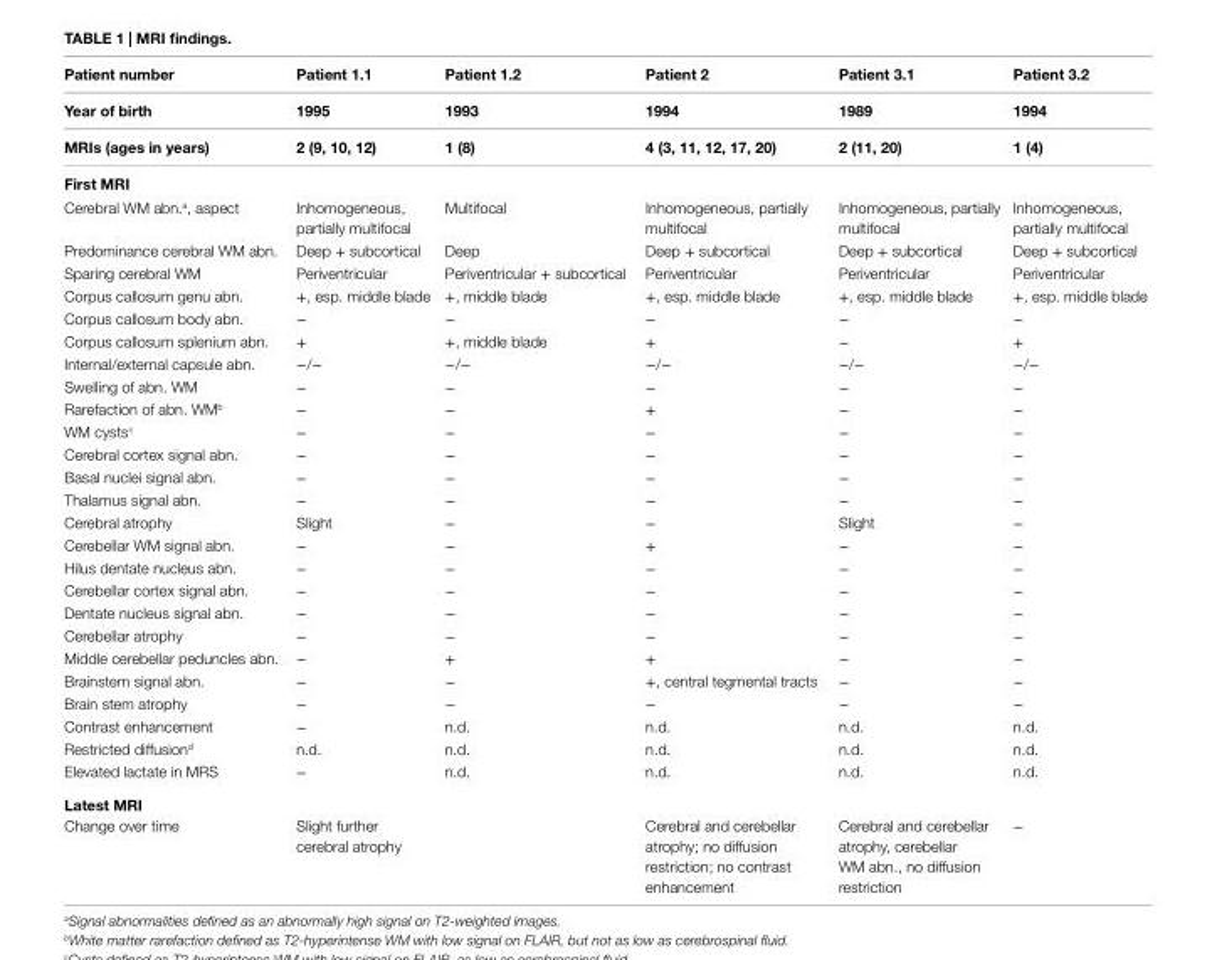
<table><thead><tr><td rowspan="3">Patient number Year of birth Mris (ages in years)</td><td rowspan="3">Patient 1.1 1995 2 (9, 10, 12)</td><td rowspan="3">Patient 1.2 1993 1 (8)</td><td rowspan="3">Patient 2 1994 4 (3, 11, 12, 17, 20)</td><td rowspan="3">Patient 3.1 1989 2 (11, 20)</td><td rowspan="3">Patient 3.2 1994 1 (4)</td></tr><tr></tr><tr></tr></thead><tbody><tr><td colspan="6">First Mri</td></tr><tr><td>Cerebral WM abn.<sup>a</sup>, aspect</td><td>Inhomogeneous, partially multifocal</td><td>Multifocal</td><td>Inhomogeneous, partially multifocal</td><td>Inhomogeneous, partially multifocal</td><td>Inhomogeneous, partially multifocal</td></tr><tr><td>Predominance cerebral WM abn.</td><td>Deep + subcortical</td><td>Deep</td><td>Deep + subcortical</td><td>Deep + subcortical</td><td>Deep + subcortical</td></tr><tr><td>Sparing cerebral WM</td><td>Periventricular</td><td>Periventricular + subcortical</td><td>Periventricular</td><td>Periventricular</td><td>Periventricular</td></tr><tr><td>Corpus callosum genu abn.</td><td>+, esp. middle blade</td><td>+, middle blade</td><td>+, esp. middle blade</td><td>+, esp. middle blade</td><td>+, esp. middle blade</td></tr><tr><td>Corpus callosum body abn.</td><td>−</td><td>−</td><td>−</td><td>−</td><td>−</td></tr><tr><td>Corpus callosum splenium abn.</td><td>+</td><td>+, middle blade</td><td>+</td><td>−</td><td>+</td></tr><tr><td>Internal/external capsule abn.</td><td>−/−</td><td>−/−</td><td>−/−</td><td>−/−</td><td>−/−</td></tr><tr><td>Swelling of abn. WM</td><td>−</td><td>−</td><td>−</td><td>−</td><td>−</td></tr><tr><td>Rarefaction of abn. WM<sup>b</sup></td><td>−</td><td>−</td><td>+</td><td>−</td><td>−</td></tr><tr><td>WM cysts<sup>c</sup></td><td>−</td><td>−</td><td>−</td><td>−</td><td>−</td></tr><tr><td>Cerebral cortex signal abn.</td><td>−</td><td>−</td><td>−</td><td>−</td><td>−</td></tr><tr><td>Basal nuclei signal abn.</td><td>−</td><td>−</td><td>−</td><td>−</td><td>−</td></tr><tr><td>Thalamus signal abn.</td><td>−</td><td>−</td><td>−</td><td>−</td><td>−</td></tr><tr><td>Cerebral atrophy</td><td>Slight</td><td>−</td><td>−</td><td>Slight</td><td>−</td></tr><tr><td>Cerebellar WM signal abn.</td><td>−</td><td>−</td><td>+</td><td>−</td><td>−</td></tr><tr><td>Hilus dentate nucleus abn.</td><td>−</td><td>−</td><td>−</td><td>−</td><td>−</td></tr><tr><td>Cerebellar cortex signal abn.</td><td>−</td><td>−</td><td>−</td><td>−</td><td>−</td></tr><tr><td>Dentate nucleus signal abn.</td><td>−</td><td>−</td><td>−</td><td>−</td><td>−</td></tr><tr><td>Cerebellar atrophy</td><td>−</td><td>−</td><td>−</td><td>−</td><td>−</td></tr><tr><td>Middle cerebellar peduncles abn.</td><td>−</td><td>+</td><td>+</td><td>−</td><td>−</td></tr><tr><td>Brainstem signal abn.</td><td>−</td><td>−</td><td>+, central tegmental tracts</td><td>−</td><td>−</td></tr><tr><td>Brain stem atrophy</td><td>−</td><td>−</td><td>−</td><td>−</td><td>−</td></tr><tr><td>Contrast enhancement</td><td>−</td><td>n.d.</td><td>n.d.</td><td>n.d.</td><td>n.d.</td></tr><tr><td>Restricted diffusion<sup>d</sup></td><td>n.d.</td><td>n.d.</td><td>n.d.</td><td>n.d.</td><td>n.d.</td></tr><tr><td>Elevated lactate in MRS</td><td>−</td><td>n.d.</td><td>n.d.</td><td>n.d.</td><td>n.d.</td></tr><tr><td colspan="6">latest Mri</td></tr><tr><td>Change over time</td><td>Slight further cerebral atrophy</td><td></td><td>Cerebral and cerebellar atrophy; no diffusion restriction; no contrast enhancement</td><td>Cerebral and cerebellar atrophy, cerebellar WM abn., no diffusion restriction</td><td>−</td></tr></tbody></table>